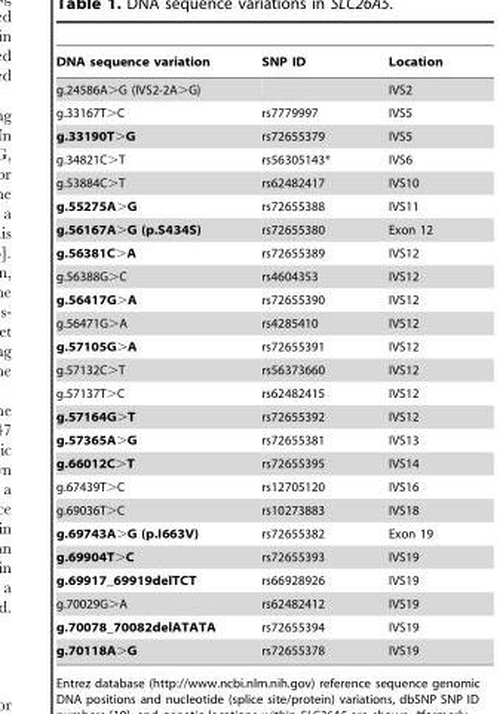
<table><thead><tr><td>DNA sequence variation</td><td>SNP ID</td><td>Location</td></tr></thead><tbody><tr><td>g.24586A&gt;G (IVS2-2A&gt;G)</td><td></td><td>IVS2</td></tr><tr><td>g.33167T&gt;C</td><td>rs7779997</td><td>IVS5</td></tr><tr><td>g.33190T&gt;G</td><td>rs72655379</td><td>IVS5</td></tr><tr><td>g.34821C&gt;T</td><td>rs56305143*</td><td>IVS6</td></tr><tr><td>g.53884C&gt;T</td><td>rs62482417</td><td>IVS10</td></tr><tr><td>g.55275A&gt;G</td><td>rs72655388</td><td>IVS11</td></tr><tr><td>g.56167A&gt;G (p.S434S)</td><td>rs72655380</td><td>Exon 12</td></tr><tr><td>g.56381C&gt;A</td><td>rs72655389</td><td>IVS12</td></tr><tr><td>g.56388G&gt;C</td><td>rs4604353</td><td>IVS12</td></tr><tr><td>g.56417G&gt;A</td><td>rs72655390</td><td>IVS12</td></tr><tr><td>g.56471G&gt;A</td><td>rs4285410</td><td>IVS12</td></tr><tr><td>g.57105G&gt;A</td><td>rs72655391</td><td>IVS12</td></tr><tr><td>g.57132C&gt;T</td><td>rs56373660</td><td>IVS12</td></tr><tr><td>g.57137T&gt;C</td><td>rs62482415</td><td>IVS12</td></tr><tr><td>g.57164G&gt;T</td><td>rs72655392</td><td>IVS12</td></tr><tr><td>g.57365A&gt;G</td><td>rs72655381</td><td>IVS13</td></tr><tr><td>g.66012C&gt;T</td><td>rs72655395</td><td>IVS14</td></tr><tr><td>g.67439T&gt;C</td><td>rs12705120</td><td>IVS16</td></tr><tr><td>g.69036T&gt;C</td><td>rs10273883</td><td>IVS18</td></tr><tr><td>g.69743A&gt;G (p.I663V)</td><td>rs72655382</td><td>Exon 19</td></tr><tr><td>g.69904T&gt;C</td><td>rs72655393</td><td>IVS19</td></tr><tr><td>g.69917_69919delTCT</td><td>rs66928926</td><td>IVS19</td></tr><tr><td>g.70029G&gt;A</td><td>rs62482412</td><td>IVS19</td></tr><tr><td>g.70078_70082delATATA</td><td>rs72655394</td><td>IVS19</td></tr><tr><td>g.70118A&gt;G</td><td>rs72655378</td><td>IVS19</td></tr></tbody></table>